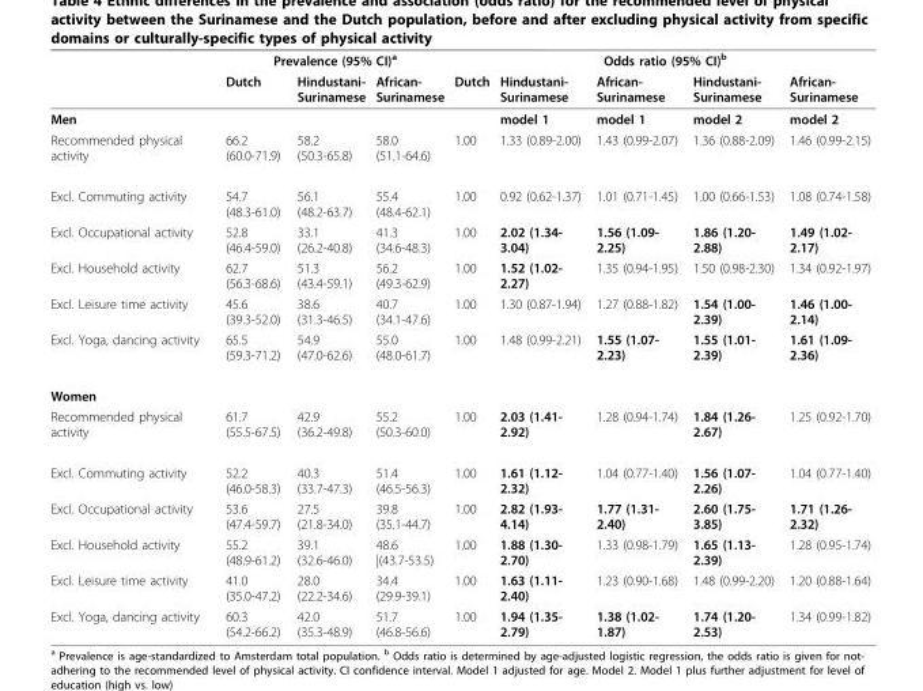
<table><thead><tr><td rowspan="2"></td><td colspan="3">Prevalence (95% CI)<sup>a</sup></td><td colspan="5">Odds ratio (95% CI)<sup>b</sup></td></tr><tr><td>Dutch</td><td>Hindustani- Surinamese</td><td>African- Surinamese</td><td>Dutch</td><td>Hindustani- Surinamese</td><td>African- Surinamese</td><td>Hindustani- Surinamese</td><td>African- Surinamese</td></tr></thead><tbody><tr><td>Men</td><td></td><td></td><td></td><td></td><td>model 1</td><td>model 1</td><td>model 2</td><td>model 2</td></tr><tr><td>Recommended physical activity</td><td>66.2 (60.0-71.9)</td><td>58.2 (50.3-65.8)</td><td>58.0 (51.1-64.6)</td><td>1.00</td><td>1.33 (0.89-2.00)</td><td>1.43 (0.99-2.07)</td><td>1.36 (0.88-2.09)</td><td>1.46 (0.99-2.15)</td></tr><tr><td>Excl. Commuting activity</td><td>54.7 (48.3-61.0)</td><td>56.1 (48.2-63.7)</td><td>55.4 (48.4-62.1)</td><td>1.00</td><td>0.92 (0.62-1.37)</td><td>1.01 (0.71-1.45)</td><td>1.00 (0.66-1.53)</td><td>1.08 (0.74-1.58)</td></tr><tr><td>Excl. Occupational activity</td><td>52.8 (46.4-59.0)</td><td>33.1 (26.2-40.8)</td><td>41.3 (34.6-48.3)</td><td>1.00</td><td>2.02 (1.34- 3.04)</td><td>1.56 (1.09- 2.25)</td><td>1.86 (1.20- 2.88)</td><td>1.49 (1.02- 2.17)</td></tr><tr><td>Excl. Household activity</td><td>62.7 (56.3-68.6)</td><td>51.3 (43.4-59.1)</td><td>56.2 (49.3-62.9)</td><td>1.00</td><td>1.52 (1.02- 2.27)</td><td>1.35 (0.94-1.95)</td><td>1.50 (0.98-2.30)</td><td>1.34 (0.92-1.97)</td></tr><tr><td>Excl. Leisure time activity</td><td>45.6 (39.3-52.0)</td><td>38.6 (31.3-46.5)</td><td>40.7 (34.1-47.6)</td><td>1.00</td><td>1.30 (0.87-1.94)</td><td>1.27 (0.88-1.82)</td><td>1.54 (1.00- 2.39)</td><td>1.46 (1.00- 2.14)</td></tr><tr><td>Excl. Yoga, dancing activity</td><td>65.5 (59.3-71.2)</td><td>54.9 (47.0-62.6)</td><td>55.0 (48.0-61.7)</td><td>1.00</td><td>1.48 (0.99-2.21)</td><td>1.55 (1.07- 2.23)</td><td>1.55 (1.01- 2.39)</td><td>1.61 (1.09- 2.36)</td></tr><tr><td colspan="9">Women</td></tr><tr><td>Recommended physical activity</td><td>61.7 (55.5-67.5)</td><td>42.9 (36.2-49.8)</td><td>55.2 (50.3-60.0)</td><td>1.00</td><td>2.03 (1.41- 2.92)</td><td>1.28 (0.94-1.74)</td><td>1.84 (1.26- 2.67)</td><td>1.25 (0.92-1.70)</td></tr><tr><td>Excl. Commuting activity</td><td>52.2 (46.0-58.3)</td><td>40.3 (33.7-47.3)</td><td>51.4 (46.5-56.3)</td><td>1.00</td><td>1.61 (1.12- 2.32)</td><td>1.04 (0.77-1.40)</td><td>1.56 (1.07- 2.26)</td><td>1.04 (0.77-1.40)</td></tr><tr><td>Excl. Occupational activity</td><td>53.6 (47.4-59.7)</td><td>27.5 (21.8-34.0)</td><td>39.8 (35.1-44.7)</td><td>1.00</td><td>2.82 (1.93- 4.14)</td><td>1.77 (1.31- 2.40)</td><td>2.60 (1.75- 3.85)</td><td>1.71 (1.26- 2.32)</td></tr><tr><td>Excl. Household activity</td><td>55.2 (48.9-61.2)</td><td>39.1 (32.6-46.0)</td><td>48.6 |(43.7-53.5)</td><td>1.00</td><td>1.88 (1.30- 2.70)</td><td>1.33 (0.98-1.79)</td><td>1.65 (1.13- 2.39)</td><td>1.28 (0.95-1.74)</td></tr><tr><td>Excl. Leisure time activity</td><td>41.0 (35.0-47.2)</td><td>28.0 (22.2-34.6)</td><td>34.4 (29.9-39.1)</td><td>1.00</td><td>1.63 (1.11- 2.40)</td><td>1.23 (0.90-1.68)</td><td>1.48 (0.99-2.20)</td><td>1.20 (0.88-1.64)</td></tr><tr><td>Excl. Yoga, dancing activity</td><td>60.3 (54.2-66.2)</td><td>42.0 (35.3-48.9)</td><td>51.7 (46.8-56.6)</td><td>1.00</td><td>1.94 (1.35- 2.79)</td><td>1.38 (1.02- 1.87)</td><td>1.74 (1.20- 2.53)</td><td>1.34 (0.99-1.82)</td></tr></tbody></table>